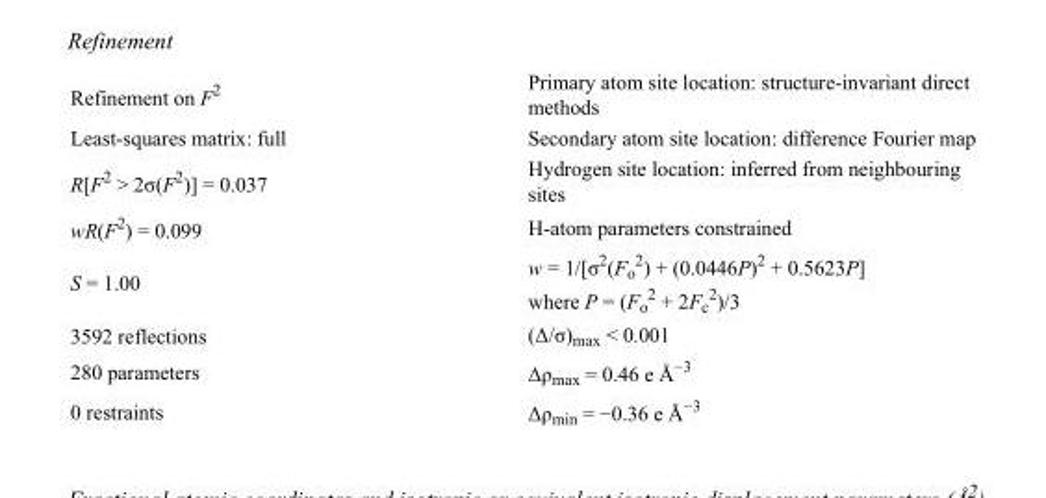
<table><tbody><tr><td>Refinement on F<sup>2</sup></td><td>Primary atom site location: structure-invariant direct methods</td></tr><tr><td>Least-squares matrix: full</td><td>Secondary atom site location: difference Fourier map</td></tr><tr><td>R[F<sup>2</sup> &gt; 2σ(F<sup>2</sup>)] = 0.037</td><td>Hydrogen site location: inferred from neighbouring sites</td></tr><tr><td>wR(F<sup>2</sup>) = 0.099</td><td>H-atom parameters constrained</td></tr><tr><td>S = 1.00</td><td>w = 1/[σ<sup>2</sup>(F<sub>o</sub> <sup>2</sup>) + (0.0446P)<sup>2</sup> + 0.5623P] where P = (F<sub>o</sub> <sup>2</sup> + 2F<sub>c</sub> <sup>2</sup>)/3</td></tr><tr><td>3592 reflections</td><td>(Δ/σ)<sub>max</sub> &lt; 0.001</td></tr><tr><td>280 parameters</td><td>Δρ<sub>max</sub> = 0.46 e Å<sup>−3</sup></td></tr><tr><td>0 restraints</td><td>Δρ<sub>min</sub> = −0.36 e Å<sup>−3</sup></td></tr></tbody></table>